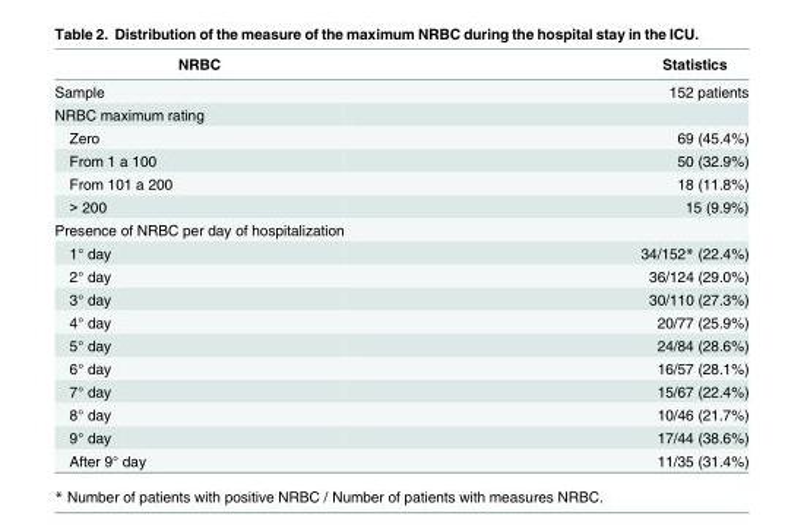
<table><thead><tr><td>NRBC</td><td>Statistics</td></tr></thead><tbody><tr><td>Sample</td><td>152 patients</td></tr><tr><td colspan="2">NRBC maximum rating</td></tr><tr><td>Zero</td><td>69 (45.4%)</td></tr><tr><td>From 1 a 100</td><td>50 (32.9%)</td></tr><tr><td>From 101 a 200</td><td>18 (11.8%)</td></tr><tr><td>&gt; 200</td><td>15 (9.9%)</td></tr><tr><td colspan="2">Presence of NRBC per day of hospitalization</td></tr><tr><td>1° day</td><td>34/152* (22.4%)</td></tr><tr><td>2° day</td><td>36/124 (29.0%)</td></tr><tr><td>3° day</td><td>30/110 (27.3%)</td></tr><tr><td>4° day</td><td>20/77 (25.9%)</td></tr><tr><td>5° day</td><td>24/84 (28.6%)</td></tr><tr><td>6° day</td><td>16/57 (28.1%)</td></tr><tr><td>7° day</td><td>15/67 (22.4%)</td></tr><tr><td>8° day</td><td>10/46 (21.7%)</td></tr><tr><td>9° day</td><td>17/44 (38.6%)</td></tr><tr><td>After 9° day</td><td>11/35 (31.4%)</td></tr></tbody></table>